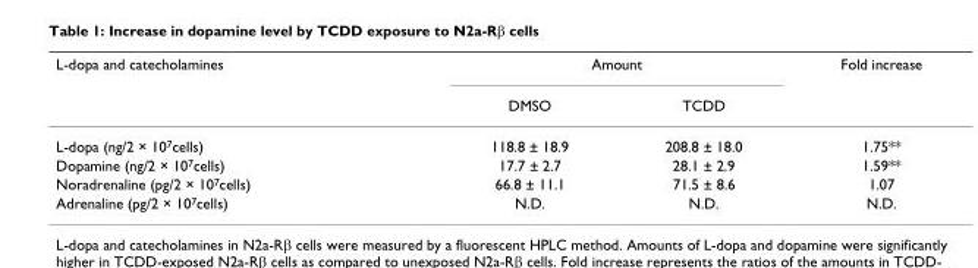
<table><thead><tr><td rowspan="2">L-dopa and catecholamines</td><td colspan="2">Amount</td><td rowspan="2">Fold increase</td></tr><tr><td>DMSO</td><td>TCDD</td></tr></thead><tbody><tr><td>L-dopa (ng/2 × 10<sup>7</sup>cells)</td><td>118.8 ± 18.9</td><td>208.8 ± 18.0</td><td>1.75**</td></tr><tr><td>Dopamine (ng/2 × 10<sup>7</sup>cells)</td><td>17.7 ± 2.7</td><td>28.1 ± 2.9</td><td>1.59**</td></tr><tr><td>Noradrenaline (pg/2 × 10<sup>7</sup>cells)</td><td>66.8 ± 11.1</td><td>71.5 ± 8.6</td><td>1.07</td></tr><tr><td>Adrenaline (pg/2 × 10<sup>7</sup>cells)</td><td>N.D.</td><td>N.D.</td><td>N.D.</td></tr></tbody></table>